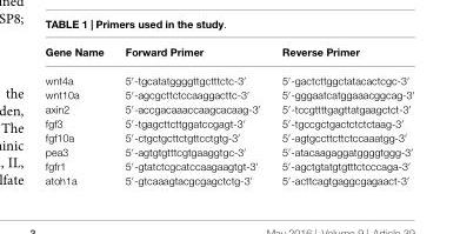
<table><thead><tr><td>Gene Name</td><td>Forward Primer</td><td>Reverse Primer</td></tr></thead><tbody><tr><td>wnt4a</td><td>5′-tgcatatggggttgctttctc-3′</td><td>5′-gactcttggctatacactcgc-3′</td></tr><tr><td>wnt10a</td><td>5′-agcgcttctccaaggacttc-3′</td><td>5′-gggaatcatggaaacggcag-3′</td></tr><tr><td>axin2</td><td>5′-accgacaaaccaagcacaag-3′</td><td>5′-tccgttttgagttatgaagctct-3′</td></tr><tr><td>fgf3</td><td>5′-tgagcttcttggatccgagt-3′</td><td>5′-tgccgctgactctctctaag-3′</td></tr><tr><td>fgf10a</td><td>5′-ctgctgcttctgttcctgtg-3′</td><td>5′-agtgccttcttctccaaatgg-3′</td></tr><tr><td>pea3</td><td>5′-agtgtgtttcgtgaaggtgc-3′</td><td>5′-atacaagaggatggggtggg-3′</td></tr><tr><td>fgfr1</td><td>5′-gtatctcgcatccaagaagtgt-3′</td><td>5′-agctgtatgtgtttctcccaga-3′</td></tr><tr><td>atoh1a</td><td>5′-gtcaaagtacgcgagctctg-3′</td><td>5′-acttcagtgaggcgagaact-3′</td></tr></tbody></table>